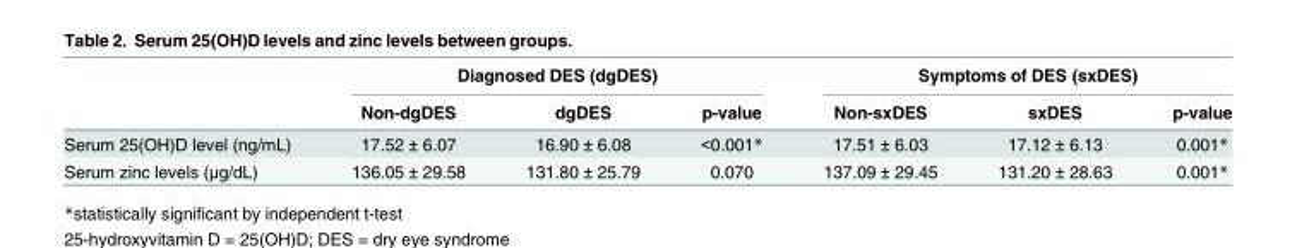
<table><thead><tr><td rowspan="2"></td><td colspan="3">Diagnosed DES (dgDES)</td><td colspan="3">Symptoms of DES (sxDES)</td></tr><tr><td>Non-dgDES</td><td>dgDES</td><td>p-value</td><td>Non-sxDES</td><td>sxDES</td><td>p-value</td></tr></thead><tbody><tr><td>Serum 25(OH)D level (ng/mL)</td><td>17.52 ± 6.07</td><td>16.90 ± 6.08</td><td>&lt;0.001*</td><td>17.51 ± 6.03</td><td>17.12 ± 6.13</td><td>0.001*</td></tr><tr><td>Serum zinc levels (μg/dL)</td><td>136.05 ± 29.58</td><td>131.80 ± 25.79</td><td>0.070</td><td>137.09 ± 29.45</td><td>131.20 ± 28.63</td><td>0.001*</td></tr></tbody></table>